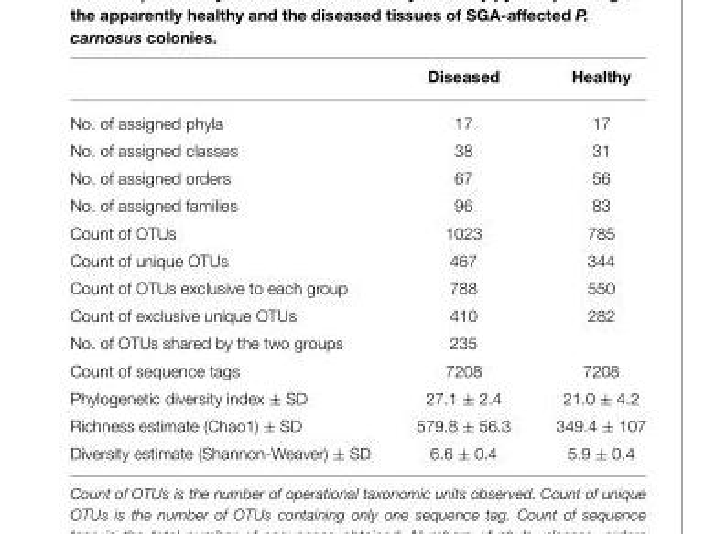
<table><thead><tr><td></td><td>Diseased</td><td>Healthy</td></tr></thead><tbody><tr><td>No. of assigned phyla</td><td>17</td><td>17</td></tr><tr><td>No. of assigned classes</td><td>38</td><td>31</td></tr><tr><td>No. of assigned orders</td><td>67</td><td>56</td></tr><tr><td>No. of assigned families</td><td>96</td><td>83</td></tr><tr><td>Count of OTUs</td><td>1023</td><td>785</td></tr><tr><td>Count of unique OTUs</td><td>467</td><td>344</td></tr><tr><td>Count of OTUs exclusive to each group</td><td>788</td><td>550</td></tr><tr><td>Count of exclusive unique OTUs</td><td>410</td><td>282</td></tr><tr><td>No. of OTUs shared by the two groups</td><td>235</td><td></td></tr><tr><td>Count of sequence tags</td><td>7208</td><td>7208</td></tr><tr><td>Phylogenetic diversity index ± SD</td><td>27.1 ± 2.4</td><td>21.0 ± 4.2</td></tr><tr><td>Richness estimate (Chao1) ± SD</td><td>579.8 ± 56.3</td><td>349.4 ± 107</td></tr><tr><td>Diversity estimate (Shannon-Weaver) ± SD</td><td>6.6 ± 0.4</td><td>5.9 ± 0.4</td></tr></tbody></table>